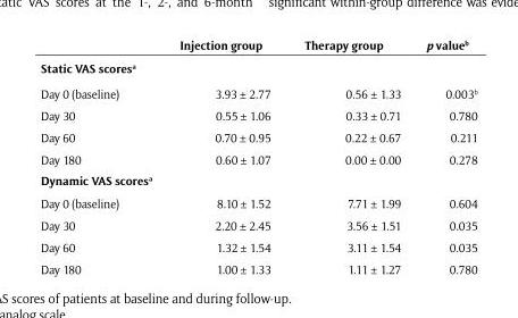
<table><thead><tr><td></td><td>Injection group</td><td>Therapy group</td><td>p value<sup>b</sup></td></tr></thead><tbody><tr><td colspan="4">Static VAS scores<sup>a</sup></td></tr><tr><td>Day 0 (baseline)</td><td>3.93 ± 2.77</td><td>0.56 ± 1.33</td><td>0.003<sup>b</sup></td></tr><tr><td>Day 30</td><td>0.55 ± 1.06</td><td>0.33 ± 0.71</td><td>0.780</td></tr><tr><td>Day 60</td><td>0.70 ± 0.95</td><td>0.22 ± 0.67</td><td>0.211</td></tr><tr><td>Day 180</td><td>0.60 ± 1.07</td><td>0.00 ± 0.00</td><td>0.278</td></tr><tr><td colspan="4">Dynamic VAS scores<sup>a</sup></td></tr><tr><td>Day 0 (baseline)</td><td>8.10 ± 1.52</td><td>7.71 ± 1.99</td><td>0.604</td></tr><tr><td>Day 30</td><td>2.20 ± 2.45</td><td>3.56 ± 1.51</td><td>0.035</td></tr><tr><td>Day 60</td><td>1.32 ± 1.54</td><td>3.11 ± 1.54</td><td>0.035</td></tr><tr><td>Day 180</td><td>1.00 ± 1.33</td><td>1.11 ± 1.27</td><td>0.780</td></tr></tbody></table>